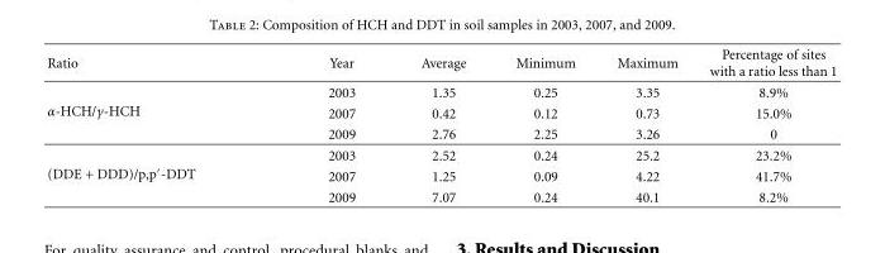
<table><thead><tr><td>Ratio</td><td>Year</td><td>Average</td><td>Minimum</td><td>Maximum</td><td>Percentage of sites with a ratio less than 1</td></tr></thead><tbody><tr><td rowspan="3">α-HCH/γ-HCH</td><td>2003</td><td>1.35</td><td>0.25</td><td>3.35</td><td>8.9%</td></tr><tr><td>2007</td><td>0.42</td><td>0.12</td><td>0.73</td><td>15.0%</td></tr><tr><td>2009</td><td>2.76</td><td>2.25</td><td>3.26</td><td>0</td></tr><tr><td rowspan="3">(DDE + DDD)/p,p′-DDT</td><td>2003</td><td>2.52</td><td>0.24</td><td>25.2</td><td>23.2%</td></tr><tr><td>2007</td><td>1.25</td><td>0.09</td><td>4.22</td><td>41.7%</td></tr><tr><td>2009</td><td>7.07</td><td>0.24</td><td>40.1</td><td>8.2%</td></tr></tbody></table>